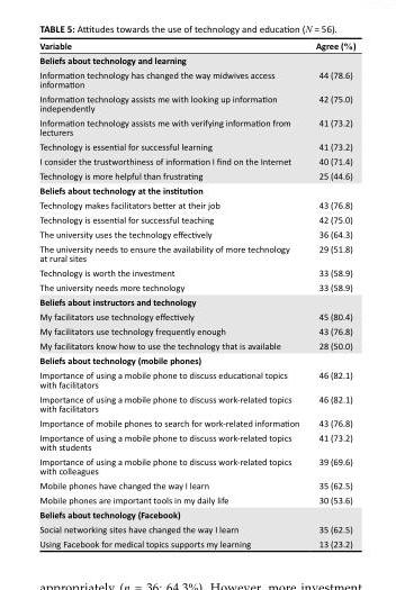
<table><thead><tr><td>Variable</td><td>Agree (%)</td></tr></thead><tbody><tr><td colspan="2">Beliefs about technology and learning</td></tr><tr><td>Information technology has changed the way midwives access information</td><td>44 (78.6)</td></tr><tr><td>Information technology assists me with looking up information independently</td><td>42 (75.0)</td></tr><tr><td>Information technology assists me with verifying information from lecturers</td><td>41 (73.2)</td></tr><tr><td>Technology is essential for successful learning</td><td>41 (73.2)</td></tr><tr><td>I consider the trustworthiness of information I find on the Internet</td><td>40 (71.4)</td></tr><tr><td>Technology is more helpful than frustrating</td><td>25 (44.6)</td></tr><tr><td colspan="2">Beliefs about technology at the institution</td></tr><tr><td>Technology makes facilitators better at their job</td><td>43 (76.8)</td></tr><tr><td>Technology is essential for successful teaching</td><td>42 (75.0)</td></tr><tr><td>The university uses the technology effectively</td><td>36 (64.3)</td></tr><tr><td>The university needs to ensure the availability of more technology at rural sites</td><td>29 (51.8)</td></tr><tr><td>Technology is worth the investment</td><td>33 (58.9)</td></tr><tr><td>The university needs more technology</td><td>33 (58.9)</td></tr><tr><td colspan="2">Beliefs about instructors and technology</td></tr><tr><td>My facilitators use technology effectively</td><td>45 (80.4)</td></tr><tr><td>My facilitators use technology frequently enough</td><td>43 (76.8)</td></tr><tr><td>My facilitators know how to use the technology that is available</td><td>28 (50.0)</td></tr><tr><td colspan="2">Beliefs about technology (mobile phones)</td></tr><tr><td>Importance of using a mobile phone to discuss educational topics with facilitators</td><td>46 (82.1)</td></tr><tr><td>Importance of using a mobile phone to discuss work-related topics with facilitators</td><td>46 (82.1)</td></tr><tr><td>Importance of mobile phones to search for work-related information</td><td>43 (76.8)</td></tr><tr><td>Importance of using a mobile phone to discuss work-related topics with students</td><td>41 (73.2)</td></tr><tr><td>Importance of using a mobile phone to discuss work-related topics with colleagues</td><td>39 (69.6)</td></tr><tr><td>Mobile phones have changed the way I learn</td><td>35 (62.5)</td></tr><tr><td>Mobile phones are important tools in my daily life</td><td>30 (53.6)</td></tr><tr><td colspan="2">Beliefs about technology (Facebook)</td></tr><tr><td>Social networking sites have changed the way I learn</td><td>35 (62.5)</td></tr><tr><td>Using Facebook for medical topics supports my learning</td><td>13 (23.2)</td></tr></tbody></table>